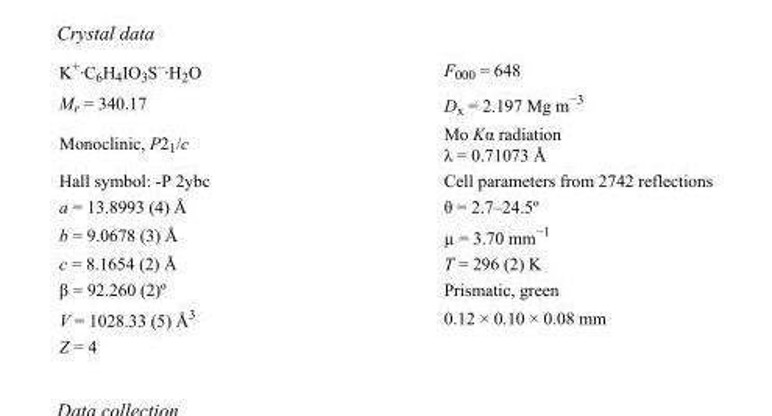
<table><tbody><tr><td>K<sup>+</sup>·C<sub>6</sub>H<sub>4</sub>IO<sub>3</sub>S<sup>–</sup>·H<sub>2</sub>O</td><td>F<sub>000</sub> = 648</td></tr><tr><td>M<sub>r</sub> = 340.17</td><td>D<sub>x</sub> = 2.197 Mg m<sup>−3</sup></td></tr><tr><td>Monoclinic, P2<sub>1</sub>/c</td><td>Mo Kα radiation λ = 0.71073 Å</td></tr><tr><td>Hall symbol: -P 2ybc</td><td>Cell parameters from 2742 reflections</td></tr><tr><td>a = 13.8993 (4) Å</td><td>θ = 2.7–24.5º</td></tr><tr><td>b = 9.0678 (3) Å</td><td>µ = 3.70 mm<sup>−1</sup></td></tr><tr><td>c = 8.1654 (2) Å</td><td>T = 296 (2) K</td></tr><tr><td>β = 92.260 (2)º</td><td>Prismatic, green</td></tr><tr><td>V = 1028.33 (5) Å<sup>3</sup></td><td>0.12 × 0.10 × 0.08 mm</td></tr><tr><td>Z = 4</td><td></td></tr></tbody></table>